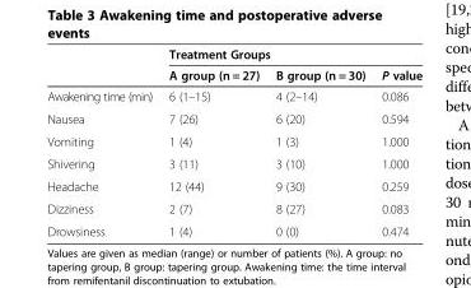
<table><thead><tr><td rowspan="2"></td><td colspan="3">Treatment Groups</td></tr><tr><td>A group (n = 27)</td><td>B group (n = 30)</td><td>P value</td></tr></thead><tbody><tr><td>Awakening time (min)</td><td>6 (1–15)</td><td>4 (2–14)</td><td>0.086</td></tr><tr><td>Nausea</td><td>7 (26)</td><td>6 (20)</td><td>0.594</td></tr><tr><td>Vomiting</td><td>1 (4)</td><td>1 (3)</td><td>1.000</td></tr><tr><td>Shivering</td><td>3 (11)</td><td>3 (10)</td><td>1.000</td></tr><tr><td>Headache</td><td>12 (44)</td><td>9 (30)</td><td>0.259</td></tr><tr><td>Dizziness</td><td>2 (7)</td><td>8 (27)</td><td>0.083</td></tr><tr><td>Drowsiness</td><td>1 (4)</td><td>0 (0)</td><td>0.474</td></tr></tbody></table>